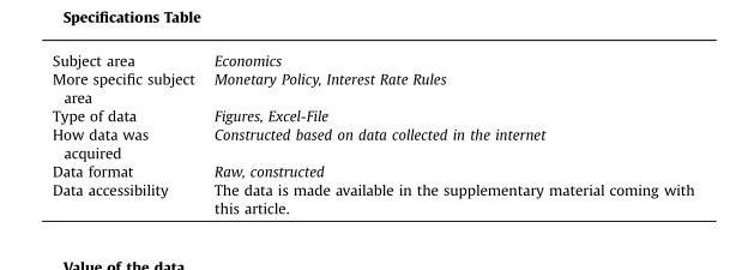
<table><tbody><tr><td>Subject area</td><td>Economics</td></tr><tr><td>More specific subject area</td><td>Monetary Policy, Interest Rate Rules</td></tr><tr><td>Type of data</td><td>Figures, Excel-File</td></tr><tr><td>How data was acquired</td><td>Constructed based on data collected in the internet</td></tr><tr><td>Data format</td><td>Raw, constructed</td></tr><tr><td>Data accessibility</td><td>The data is made available in the supplementary material coming with this article.</td></tr></tbody></table>